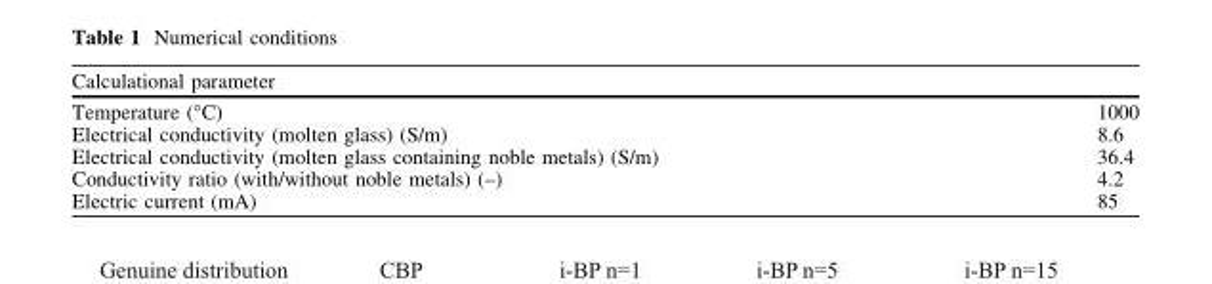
<table><thead><tr><td colspan="2">Calculational parameter</td></tr><tr><td>Temperature (°C)</td><td>1000</td></tr></thead><tbody><tr><td>Electrical conductivity (molten glass) (S/m)</td><td>8.6</td></tr><tr><td>Electrical conductivity (molten glass containing noble metals) (S/m)</td><td>36.4</td></tr><tr><td>Conductivity ratio (with/without noble metals) (–)</td><td>4.2</td></tr><tr><td>Electric current (mA)</td><td>85</td></tr></tbody></table>